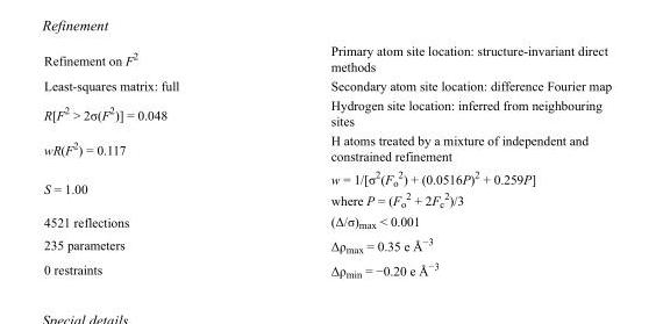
<table><tbody><tr><td>Refinement on F<sup>2</sup></td><td>Primary atom site location: structure-invariant direct methods</td></tr><tr><td>Least-squares matrix: full</td><td>Secondary atom site location: difference Fourier map</td></tr><tr><td>R[F<sup>2</sup> &gt; 2σ(F<sup>2</sup>)] = 0.048</td><td>Hydrogen site location: inferred from neighbouring sites</td></tr><tr><td>wR(F<sup>2</sup>) = 0.117</td><td>H atoms treated by a mixture of independent and constrained refinement</td></tr><tr><td>S = 1.00</td><td>w = 1/[σ<sup>2</sup>(F<sub>o</sub> <sup>2</sup>) + (0.0516P)<sup>2</sup> + 0.259P] where P = (F<sub>o</sub> <sup>2</sup> + 2F<sub>c</sub> <sup>2</sup>)/3</td></tr><tr><td>4521 reflections</td><td>(Δ/σ)<sub>max</sub> &lt; 0.001</td></tr><tr><td>235 parameters</td><td>Δρ<sub>max</sub> = 0.35 e Å<sup>−3</sup></td></tr><tr><td>0 restraints</td><td>Δρ<sub>min</sub> = −0.20 e Å<sup>−3</sup></td></tr></tbody></table>